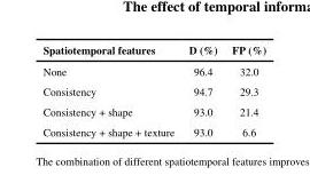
<table><thead><tr><td>Spatiotemporal features</td><td>D (%)</td><td>FP (%)</td></tr></thead><tbody><tr><td>None</td><td>96.4</td><td>32.0</td></tr><tr><td>Consistency</td><td>94.7</td><td>29.3</td></tr><tr><td>Consistency + shape</td><td>93.0</td><td>21.4</td></tr><tr><td>Consistency + shape + texture</td><td>93.0</td><td>6.6</td></tr></tbody></table>